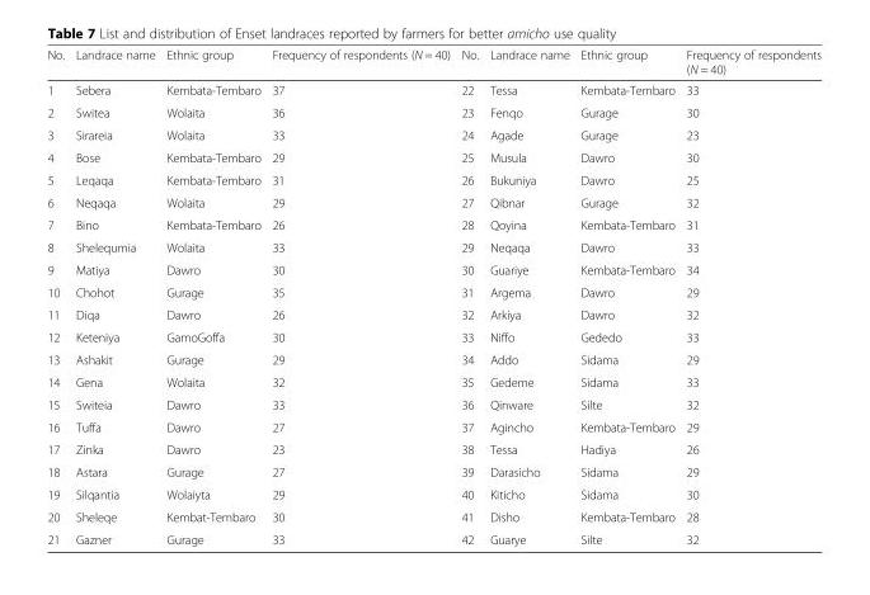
<table><thead><tr><td>No.</td><td>Landrace name</td><td>Ethnic group</td><td>Frequency of respondents (N = 40)</td><td>No.</td><td>Landrace name</td><td>Ethnic group</td><td>Frequency of respondents (N = 40)</td></tr></thead><tbody><tr><td>1</td><td>Sebera</td><td>Kembata-Tembaro</td><td>37</td><td>22</td><td>Tessa</td><td>Kembata-Tembaro</td><td>33</td></tr><tr><td>2</td><td>Switea</td><td>Wolaita</td><td>36</td><td>23</td><td>Fenqo</td><td>Gurage</td><td>30</td></tr><tr><td>3</td><td>Sirareia</td><td>Wolaita</td><td>33</td><td>24</td><td>Agade</td><td>Gurage</td><td>23</td></tr><tr><td>4</td><td>Bose</td><td>Kembata-Tembaro</td><td>29</td><td>25</td><td>Musula</td><td>Dawro</td><td>30</td></tr><tr><td>5</td><td>Leqaqa</td><td>Kembata-Tembaro</td><td>31</td><td>26</td><td>Bukuniya</td><td>Dawro</td><td>25</td></tr><tr><td>6</td><td>Neqaqa</td><td>Wolaita</td><td>29</td><td>27</td><td>Qibnar</td><td>Gurage</td><td>32</td></tr><tr><td>7</td><td>Bino</td><td>Kembata-Tembaro</td><td>26</td><td>28</td><td>Qoyina</td><td>Kembata-Tembaro</td><td>31</td></tr><tr><td>8</td><td>Shelequmia</td><td>Wolaita</td><td>33</td><td>29</td><td>Neqaqa</td><td>Dawro</td><td>33</td></tr><tr><td>9</td><td>Matiya</td><td>Dawro</td><td>30</td><td>30</td><td>Guariye</td><td>Kembata-Tembaro</td><td>34</td></tr><tr><td>10</td><td>Chohot</td><td>Gurage</td><td>35</td><td>31</td><td>Argema</td><td>Dawro</td><td>29</td></tr><tr><td>11</td><td>Diqa</td><td>Dawro</td><td>26</td><td>32</td><td>Arkiya</td><td>Dawro</td><td>32</td></tr><tr><td>12</td><td>Keteniya</td><td>GamoGoffa</td><td>30</td><td>33</td><td>Niffo</td><td>Gededo</td><td>33</td></tr><tr><td>13</td><td>Ashakit</td><td>Gurage</td><td>29</td><td>34</td><td>Addo</td><td>Sidama</td><td>29</td></tr><tr><td>14</td><td>Gena</td><td>Wolaita</td><td>32</td><td>35</td><td>Gedeme</td><td>Sidama</td><td>33</td></tr><tr><td>15</td><td>Switeia</td><td>Dawro</td><td>33</td><td>36</td><td>Qinware</td><td>Silte</td><td>32</td></tr><tr><td>16</td><td>Tuffa</td><td>Dawro</td><td>27</td><td>37</td><td>Agincho</td><td>Kembata-Tembaro</td><td>29</td></tr><tr><td>17</td><td>Zinka</td><td>Dawro</td><td>23</td><td>38</td><td>Tessa</td><td>Hadiya</td><td>26</td></tr><tr><td>18</td><td>Astara</td><td>Gurage</td><td>27</td><td>39</td><td>Darasicho</td><td>Sidama</td><td>29</td></tr><tr><td>19</td><td>Silqantia</td><td>Wolaiyta</td><td>29</td><td>40</td><td>Kiticho</td><td>Sidama</td><td>30</td></tr><tr><td>20</td><td>Sheleqe</td><td>Kembat-Tembaro</td><td>30</td><td>41</td><td>Disho</td><td>Kembata-Tembaro</td><td>28</td></tr><tr><td>21</td><td>Gazner</td><td>Gurage</td><td>33</td><td>42</td><td>Guarye</td><td>Silte</td><td>32</td></tr></tbody></table>